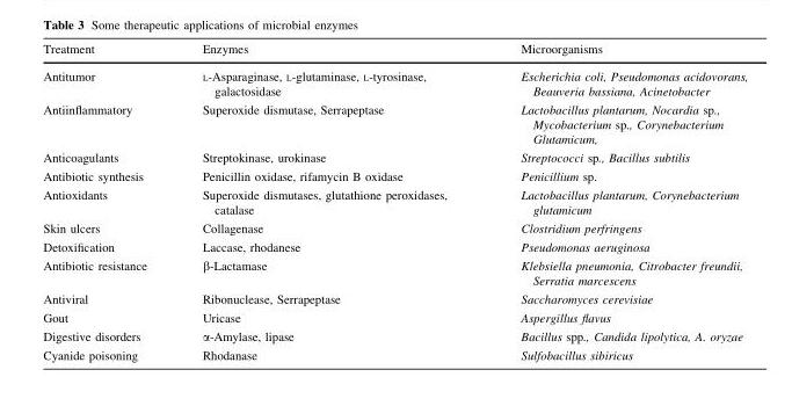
<table><thead><tr><td>Treatment</td><td>Enzymes</td><td>Microorganisms</td></tr></thead><tbody><tr><td>Antitumor</td><td>L-Asparaginase, L-glutaminase, L-tyrosinase, galactosidase</td><td>Escherichia coli, Pseudomonas acidovorans, Beauveria bassiana, Acinetobacter</td></tr><tr><td>Antiinflammatory</td><td>Superoxide dismutase, Serrapeptase</td><td>Lactobacillus plantarum, Nocardia sp., Mycobacterium sp., Corynebacterium Glutamicum,</td></tr><tr><td>Anticoagulants</td><td>Streptokinase, urokinase</td><td>Streptococci sp., Bacillus subtilis</td></tr><tr><td>Antibiotic synthesis</td><td>Penicillin oxidase, rifamycin B oxidase</td><td>Penicillium sp.</td></tr><tr><td>Antioxidants</td><td>Superoxide dismutases, glutathione peroxidases, catalase</td><td>Lactobacillus plantarum, Corynebacterium glutamicum</td></tr><tr><td>Skin ulcers</td><td>Collagenase</td><td>Clostridium perfringens</td></tr><tr><td>Detoxification</td><td>Laccase, rhodanese</td><td>Pseudomonas aeruginosa</td></tr><tr><td>Antibiotic resistance</td><td>β-Lactamase</td><td>Klebsiella pneumonia, Citrobacter freundii, Serratia marcescens</td></tr><tr><td>Antiviral</td><td>Ribonuclease, Serrapeptase</td><td>Saccharomyces cerevisiae</td></tr><tr><td>Gout</td><td>Uricase</td><td>Aspergillus flavus</td></tr><tr><td>Digestive disorders</td><td>α-Amylase, lipase</td><td>Bacillus spp., Candida lipolytica, A. oryzae</td></tr><tr><td>Cyanide poisoning</td><td>Rhodanase</td><td>Sulfobacillus sibiricus</td></tr></tbody></table>